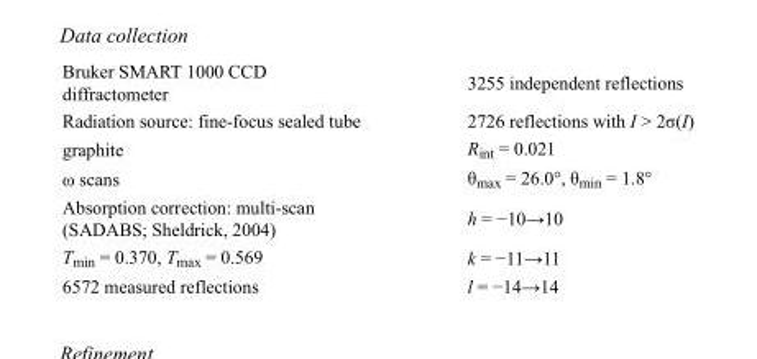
<table><tbody><tr><td>Bruker SMART 1000 CCD diffractometer</td><td>3255 independent reflections</td></tr><tr><td>Radiation source: fine-focus sealed tube</td><td>2726 reflections with I &gt; 2σ(I)</td></tr><tr><td>graphite</td><td>R<sub>int</sub> = 0.021</td></tr><tr><td>ω scans</td><td>θ<sub>max</sub> = 26.0°, θ<sub>min</sub> = 1.8°</td></tr><tr><td>Absorption correction: multi-scan (SADABS; Sheldrick, 2004)</td><td>h = −10→10</td></tr><tr><td>T<sub>min</sub> = 0.370, T<sub>max</sub> = 0.569</td><td>k = −11→11</td></tr><tr><td>6572 measured reflections</td><td>l = −14→14</td></tr></tbody></table>